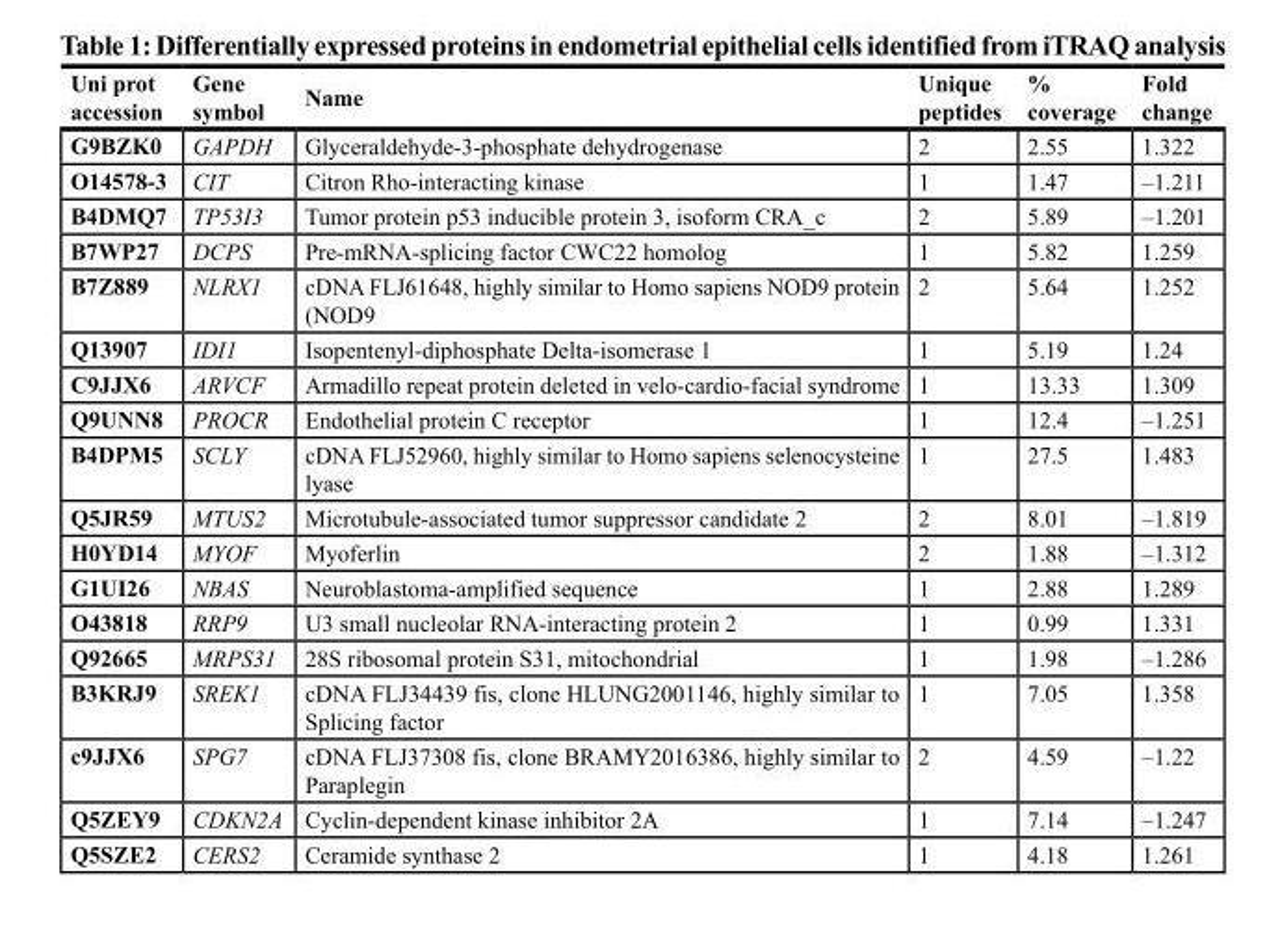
<table><thead><tr><td>Uni prot accession</td><td>Gene symbol</td><td>Name</td><td>Unique peptides</td><td>% coverage</td><td>Fold change</td></tr></thead><tbody><tr><td>G9BZK0</td><td>GAPDH</td><td>Glyceraldehyde-3-phosphate dehydrogenase</td><td>2</td><td>2.55</td><td>1.322</td></tr><tr><td>O14578-3</td><td>CIT</td><td>Citron Rho-interacting kinase</td><td>1</td><td>1.47</td><td>–1.211</td></tr><tr><td>B4DMQ7</td><td>TP53I3</td><td>Tumor protein p53 inducible protein 3, isoform CRA_c</td><td>2</td><td>5.89</td><td>–1.201</td></tr><tr><td>B7WP27</td><td>DCPS</td><td>Pre-mRNA-splicing factor CWC22 homolog</td><td>1</td><td>5.82</td><td>1.259</td></tr><tr><td>B7Z889</td><td>NLRX1</td><td>cDNA FLJ61648, highly similar to Homo sapiens NOD9 protein (NOD9</td><td>2</td><td>5.64</td><td>1.252</td></tr><tr><td>Q13907</td><td>IDI1</td><td>Isopentenyl-diphosphate Delta-isomerase 1</td><td>1</td><td>5.19</td><td>1.24</td></tr><tr><td>C9JJX6</td><td>ARVCF</td><td>Armadillo repeat protein deleted in velo-cardio-facial syndrome</td><td>1</td><td>13.33</td><td>1.309</td></tr><tr><td>Q9UNN8</td><td>PROCR</td><td>Endothelial protein C receptor</td><td>1</td><td>12.4</td><td>–1.251</td></tr><tr><td>B4DPM5</td><td>SCLY</td><td>cDNA FLJ52960, highly similar to Homo sapiens selenocysteine lyase</td><td>1</td><td>27.5</td><td>1.483</td></tr><tr><td>Q5JR59</td><td>MTUS2</td><td>Microtubule-associated tumor suppressor candidate 2</td><td>2</td><td>8.01</td><td>–1.819</td></tr><tr><td>H0YD14</td><td>MYOF</td><td>Myoferlin</td><td>2</td><td>1.88</td><td>–1.312</td></tr><tr><td>G1UI26</td><td>NBAS</td><td>Neuroblastoma-amplified sequence</td><td>1</td><td>2.88</td><td>1.289</td></tr><tr><td>O43818</td><td>RRP9</td><td>U3 small nucleolar RNA-interacting protein 2</td><td>1</td><td>0.99</td><td>1.331</td></tr><tr><td>Q92665</td><td>MRPS31</td><td>28S ribosomal protein S31, mitochondrial</td><td>1</td><td>1.98</td><td>–1.286</td></tr><tr><td>B3KRJ9</td><td>SREK1</td><td>cDNA FLJ34439 fis, clone HLUNG2001146, highly similar to Splicing factor</td><td>1</td><td>7.05</td><td>1.358</td></tr><tr><td>c9JJX6</td><td>SPG7</td><td>cDNA FLJ37308 fis, clone BRAMY2016386, highly similar to Paraplegin</td><td>2</td><td>4.59</td><td>–1.22</td></tr><tr><td>Q5ZEY9</td><td>CDKN2A</td><td>Cyclin-dependent kinase inhibitor 2A</td><td>1</td><td>7.14</td><td>–1.247</td></tr><tr><td>Q5SZE2</td><td>CERS2</td><td>Ceramide synthase 2</td><td>1</td><td>4.18</td><td>1.261</td></tr></tbody></table>